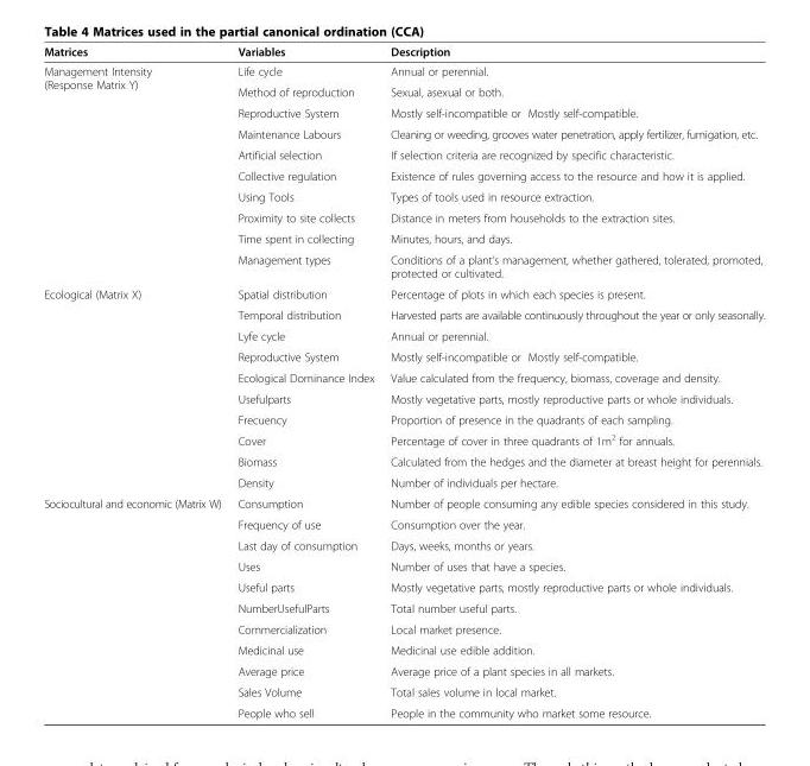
<table><thead><tr><td>Matrices</td><td>Variables</td><td>Description</td></tr></thead><tbody><tr><td rowspan="10">Management Intensity (Response Matrix Y)</td><td>Life cycle</td><td>Annual or perennial.</td></tr><tr><td>Method of reproduction</td><td>Sexual, asexual or both.</td></tr><tr><td>Reproductive System</td><td>Mostly self-incompatible or Mostly self-compatible.</td></tr><tr><td>Maintenance Labours</td><td>Cleaning or weeding, grooves water penetration, apply fertilizer, fumigation, etc.</td></tr><tr><td>Artificial selection</td><td>If selection criteria are recognized by specific characteristic.</td></tr><tr><td>Collective regulation</td><td>Existence of rules governing access to the resource and how it is applied.</td></tr><tr><td>Using Tools</td><td>Types of tools used in resource extraction.</td></tr><tr><td>Proximity to site collects</td><td>Distance in meters from households to the extraction sites.</td></tr><tr><td>Time spent in collecting</td><td>Minutes, hours, and days.</td></tr><tr><td>Management types</td><td>Conditions of a plant’s management, whether gathered, tolerated, promoted, protected or cultivated.</td></tr><tr><td rowspan="10">Ecological (Matrix X)</td><td>Spatial distribution</td><td>Percentage of plots in which each species is present.</td></tr><tr><td>Temporal distribution</td><td>Harvested parts are available continuously throughout the year or only seasonally.</td></tr><tr><td>Lyfe cycle</td><td>Annual or perennial.</td></tr><tr><td>Reproductive System</td><td>Mostly self-incompatible or Mostly self-compatible.</td></tr><tr><td>Ecological Dominance Index</td><td>Value calculated from the frequency, biomass, coverage and density.</td></tr><tr><td>Usefulparts</td><td>Mostly vegetative parts, mostly reproductive parts or whole individuals.</td></tr><tr><td>Frecuency</td><td>Proportion of presence in the quadrants of each sampling.</td></tr><tr><td>Cover</td><td>Percentage of cover in three quadrants of 1m<sup>2</sup> for annuals.</td></tr><tr><td>Biomass</td><td>Calculated from the hedges and the diameter at breast height for perennials.</td></tr><tr><td>Density</td><td>Number of individuals per hectare.</td></tr><tr><td rowspan="11">Sociocultural and economic (Matrix W)</td><td>Consumption</td><td>Number of people consuming any edible species considered in this study.</td></tr><tr><td>Frequency of use</td><td>Consumption over the year.</td></tr><tr><td>Last day of consumption</td><td>Days, weeks, months or years.</td></tr><tr><td>Uses</td><td>Number of uses that have a species.</td></tr><tr><td>Useful parts</td><td>Mostly vegetative parts, mostly reproductive parts or whole individuals.</td></tr><tr><td>NumberUsefulParts</td><td>Total number useful parts.</td></tr><tr><td>Commercialization</td><td>Local market presence.</td></tr><tr><td>Medicinal use</td><td>Medicinal use edible addition.</td></tr><tr><td>Average price</td><td>Average price of a plant species in all markets.</td></tr><tr><td>Sales Volume</td><td>Total sales volume in local market.</td></tr><tr><td>People who sell</td><td>People in the community who market some resource.</td></tr></tbody></table>